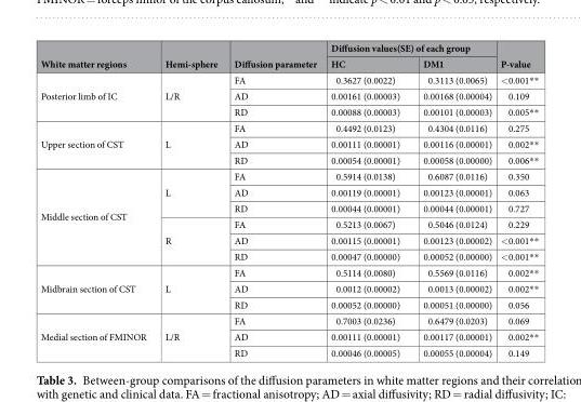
<table><thead><tr><td rowspan="2">White matter regions</td><td rowspan="2">Hemi-sphere</td><td rowspan="2">Diffusion parameter</td><td colspan="2">Diffusion values(SE) of each group</td><td rowspan="2">P-value</td></tr><tr><td>HC</td><td>DM1</td></tr></thead><tbody><tr><td rowspan="3">Posterior limb of IC</td><td rowspan="3">L/R</td><td>FA</td><td>0.3627 (0.0022)</td><td>0.3113 (0.0065)</td><td>&lt;0.001**</td></tr><tr><td>AD</td><td>0.00161 (0.00003)</td><td>0.00168 (0.00004)</td><td>0.109</td></tr><tr><td>RD</td><td>0.00088 (0.00003)</td><td>0.00101 (0.00003)</td><td>0.005**</td></tr><tr><td rowspan="3">Upper section of CST</td><td rowspan="3">L</td><td>FA</td><td>0.4492 (0.0123)</td><td>0.4304 (0.0116)</td><td>0.275</td></tr><tr><td>AD</td><td>0.00111 (0.00001)</td><td>0.00116 (0.00001)</td><td>0.002**</td></tr><tr><td>RD</td><td>0.00054 (0.00001)</td><td>0.00058 (0.00000)</td><td>0.006**</td></tr><tr><td rowspan="6">Middle section of CST</td><td rowspan="3">L</td><td>FA</td><td>0.5914 (0.0138)</td><td>0.6087 (0.0116)</td><td>0.350</td></tr><tr><td>AD</td><td>0.00119 (0.00001)</td><td>0.00123 (0.00001)</td><td>0.063</td></tr><tr><td>RD</td><td>0.00044 (0.00001)</td><td>0.00044 (0.00001)</td><td>0.727</td></tr><tr><td rowspan="3">R</td><td>FA</td><td>0.5213 (0.0067)</td><td>0.5046 (0.0124)</td><td>0.229</td></tr><tr><td>AD</td><td>0.00115 (0.00001)</td><td>0.00123 (0.00002)</td><td>&lt;0.001**</td></tr><tr><td>RD</td><td>0.00047 (0.00000)</td><td>0.00052 (0.00000)</td><td>&lt;0.001**</td></tr><tr><td rowspan="3">Midbrain section of CST</td><td rowspan="3">L</td><td>FA</td><td>0.5114 (0.0080)</td><td>0.5569 (0.0116)</td><td>0.002**</td></tr><tr><td>AD</td><td>0.0012 (0.00002)</td><td>0.0013 (0.00002)</td><td>0.002**</td></tr><tr><td>RD</td><td>0.00052 (0.00000)</td><td>0.00051 (0.00000)</td><td>0.056</td></tr><tr><td rowspan="3">Medial section of FMINOR</td><td rowspan="3">L/R</td><td>FA</td><td>0.7003 (0.0236)</td><td>0.6479 (0.0203)</td><td>0.069</td></tr><tr><td>AD</td><td>0.00111 (0.00001)</td><td>0.00117 (0.00001)</td><td>0.002**</td></tr><tr><td>RD</td><td>0.00046 (0.00005)</td><td>0.00055 (0.00004)</td><td>0.149</td></tr></tbody></table>